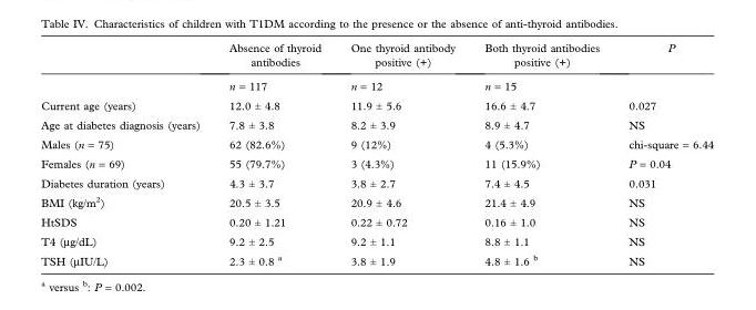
<table><thead><tr><td></td><td>Absence of thyroid antibodies</td><td>One thyroid antibody positive (+)</td><td>Both thyroid antibodies positive (+)</td><td>P</td></tr></thead><tbody><tr><td></td><td>n = 117</td><td>n = 12</td><td>n = 15</td><td></td></tr><tr><td>Current age (years)</td><td>12.0 ± 4.8</td><td>11.9 ± 5.6</td><td>16.6 ± 4.7</td><td>0.027</td></tr><tr><td>Age at diabetes diagnosis (years)</td><td>7.8 ± 3.8</td><td>8.2 ± 3.9</td><td>8.9 ± 4.7</td><td>NS</td></tr><tr><td>Males (n = 75)</td><td>62 (82.6%)</td><td>9 (12%)</td><td>4 (5.3%)</td><td>chi-square = 6.44</td></tr><tr><td>Females (n = 69)</td><td>55 (79.7%)</td><td>3 (4.3%)</td><td>11 (15.9%)</td><td>P = 0.04</td></tr><tr><td>Diabetes duration (years)</td><td>4.3 ± 3.7</td><td>3.8 ± 2.7</td><td>7.4 ± 4.5</td><td>0.031</td></tr><tr><td>BMI (kg/m<sup>2</sup>)</td><td>20.5 ± 3.5</td><td>20.9 ± 4.6</td><td>21.4 ± 4.9</td><td>NS</td></tr><tr><td>HtSDS</td><td>0.20 ± 1.21</td><td>0.22 ± 0.72</td><td>0.16 ± 1.0</td><td>NS</td></tr><tr><td>T4 (μg/dL)</td><td>9.2 ± 2.5</td><td>9.2 ± 1.1</td><td>8.8 ± 1.1</td><td>NS</td></tr><tr><td>TSH (μIU/L)</td><td>2.3 ± 0.8 <sup>a</sup></td><td>3.8 ± 1.9</td><td>4.8 ± 1.6 <sup>b</sup></td><td>NS</td></tr></tbody></table>